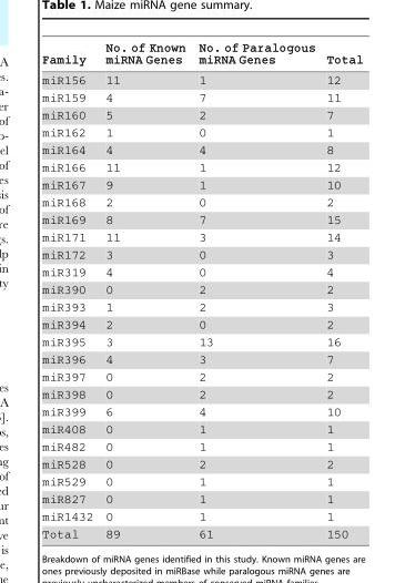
<table><thead><tr><td>Family</td><td>No. of Known miRNA Genes</td><td>No. of Paralogous miRNA Genes</td><td>Total</td></tr></thead><tbody><tr><td>miR156</td><td>11</td><td>1</td><td>12</td></tr><tr><td>miR159</td><td>4</td><td>7</td><td>11</td></tr><tr><td>miR160</td><td>5</td><td>2</td><td>7</td></tr><tr><td>miR162</td><td>1</td><td>0</td><td>1</td></tr><tr><td>miR164</td><td>4</td><td>4</td><td>8</td></tr><tr><td>miR166</td><td>11</td><td>1</td><td>12</td></tr><tr><td>miR167</td><td>9</td><td>1</td><td>10</td></tr><tr><td>miR168</td><td>2</td><td>0</td><td>2</td></tr><tr><td>miR169</td><td>8</td><td>7</td><td>15</td></tr><tr><td>miR171</td><td>11</td><td>3</td><td>14</td></tr><tr><td>miR172</td><td>3</td><td>0</td><td>3</td></tr><tr><td>miR319</td><td>4</td><td>0</td><td>4</td></tr><tr><td>miR390</td><td>0</td><td>2</td><td>2</td></tr><tr><td>miR393</td><td>1</td><td>2</td><td>3</td></tr><tr><td>miR394</td><td>2</td><td>0</td><td>2</td></tr><tr><td>miR395</td><td>3</td><td>13</td><td>16</td></tr><tr><td>miR396</td><td>4</td><td>3</td><td>7</td></tr><tr><td>miR397</td><td>0</td><td>2</td><td>2</td></tr><tr><td>miR398</td><td>0</td><td>2</td><td>2</td></tr><tr><td>miR399</td><td>6</td><td>4</td><td>10</td></tr><tr><td>miR408</td><td>0</td><td>1</td><td>1</td></tr><tr><td>miR482</td><td>0</td><td>1</td><td>1</td></tr><tr><td>miR528</td><td>0</td><td>2</td><td>2</td></tr><tr><td>miR529</td><td>0</td><td>1</td><td>1</td></tr><tr><td>miR827</td><td>0</td><td>1</td><td>1</td></tr><tr><td>miR1432</td><td>0</td><td>1</td><td>1</td></tr><tr><td>Total</td><td>89</td><td>61</td><td>150</td></tr></tbody></table>